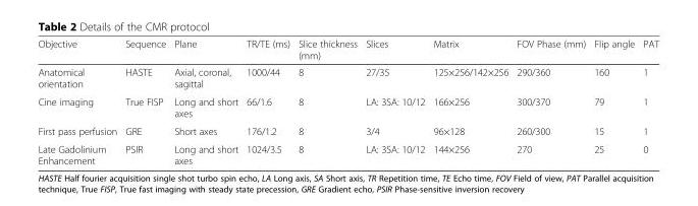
<table><thead><tr><td>Objective</td><td>Sequence</td><td>Plane</td><td>TR/TE (ms)</td><td>Slice thickness (mm)</td><td>Slices</td><td>Matrix</td><td>FOV Phase (mm)</td><td>Flip angle</td><td>PAT</td></tr></thead><tbody><tr><td>Anatomical orientation</td><td>HASTE</td><td>Axial, coronal, sagittal</td><td>1000/44</td><td>8</td><td>27/35</td><td>125×256/142×256</td><td>290/360</td><td>160</td><td>1</td></tr><tr><td>Cine imaging</td><td>True FISP</td><td>Long and short axes</td><td>66/1.6</td><td>8</td><td>LA: 3SA: 10/12</td><td>166×256</td><td>300/370</td><td>79</td><td>1</td></tr><tr><td>First pass perfusion</td><td>GRE</td><td>Short axes</td><td>176/1.2</td><td>8</td><td>3/4</td><td>96×128</td><td>260/300</td><td>15</td><td>1</td></tr><tr><td>Late Gadolinium Enhancement</td><td>PSIR</td><td>Long and short axes</td><td>1024/3.5</td><td>8</td><td>LA: 3SA: 10/12</td><td>144×256</td><td>270</td><td>25</td><td>0</td></tr></tbody></table>